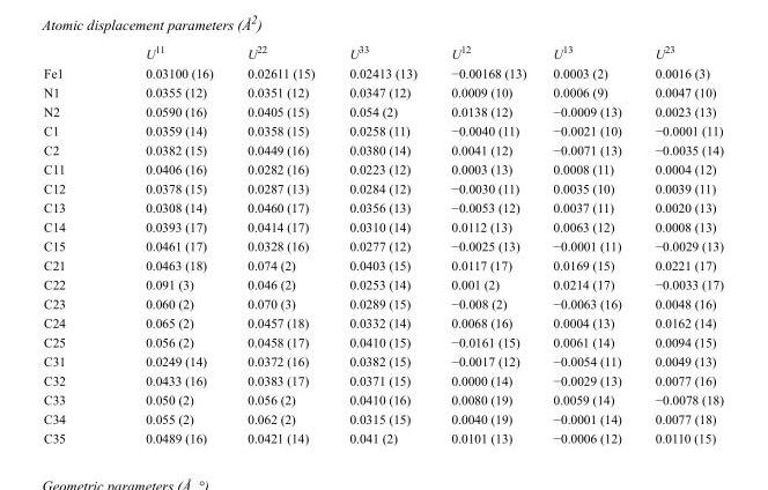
<table><thead><tr><td></td><td>U<sup>11</sup></td><td>U<sup>22</sup></td><td>U<sup>33</sup></td><td>U<sup>12</sup></td><td>U<sup>13</sup></td><td>U<sup>23</sup></td></tr></thead><tbody><tr><td>Fe1</td><td>0.03100 (16)</td><td>0.02611 (15)</td><td>0.02413 (13)</td><td>−0.00168 (13)</td><td>0.0003 (2)</td><td>0.0016 (3)</td></tr><tr><td>N1</td><td>0.0355 (12)</td><td>0.0351 (12)</td><td>0.0347 (12)</td><td>0.0009 (10)</td><td>0.0006 (9)</td><td>0.0047 (10)</td></tr><tr><td>N2</td><td>0.0590 (16)</td><td>0.0405 (15)</td><td>0.054 (2)</td><td>0.0138 (12)</td><td>−0.0009 (13)</td><td>0.0023 (13)</td></tr><tr><td>C1</td><td>0.0359 (14)</td><td>0.0358 (15)</td><td>0.0258 (11)</td><td>−0.0040 (11)</td><td>−0.0021 (10)</td><td>−0.0001 (11)</td></tr><tr><td>C2</td><td>0.0382 (15)</td><td>0.0449 (16)</td><td>0.0380 (14)</td><td>0.0041 (12)</td><td>−0.0071 (13)</td><td>−0.0035 (14)</td></tr><tr><td>C11</td><td>0.0406 (16)</td><td>0.0282 (16)</td><td>0.0223 (12)</td><td>0.0003 (13)</td><td>0.0008 (11)</td><td>0.0004 (12)</td></tr><tr><td>C12</td><td>0.0378 (15)</td><td>0.0287 (13)</td><td>0.0284 (12)</td><td>−0.0030 (11)</td><td>0.0035 (10)</td><td>0.0039 (11)</td></tr><tr><td>C13</td><td>0.0308 (14)</td><td>0.0460 (17)</td><td>0.0356 (13)</td><td>−0.0053 (12)</td><td>0.0037 (11)</td><td>0.0020 (13)</td></tr><tr><td>C14</td><td>0.0393 (17)</td><td>0.0414 (17)</td><td>0.0310 (14)</td><td>0.0112 (13)</td><td>0.0063 (12)</td><td>0.0008 (13)</td></tr><tr><td>C15</td><td>0.0461 (17)</td><td>0.0328 (16)</td><td>0.0277 (12)</td><td>−0.0025 (13)</td><td>−0.0001 (11)</td><td>−0.0029 (13)</td></tr><tr><td>C21</td><td>0.0463 (18)</td><td>0.074 (2)</td><td>0.0403 (15)</td><td>0.0117 (17)</td><td>0.0169 (15)</td><td>0.0221 (17)</td></tr><tr><td>C22</td><td>0.091 (3)</td><td>0.046 (2)</td><td>0.0253 (14)</td><td>0.001 (2)</td><td>0.0214 (17)</td><td>−0.0033 (17)</td></tr><tr><td>C23</td><td>0.060 (2)</td><td>0.070 (3)</td><td>0.0289 (15)</td><td>−0.008 (2)</td><td>−0.0063 (16)</td><td>0.0048 (16)</td></tr><tr><td>C24</td><td>0.065 (2)</td><td>0.0457 (18)</td><td>0.0332 (14)</td><td>0.0068 (16)</td><td>0.0004 (13)</td><td>0.0162 (14)</td></tr><tr><td>C25</td><td>0.056 (2)</td><td>0.0458 (17)</td><td>0.0410 (15)</td><td>−0.0161 (15)</td><td>0.0061 (14)</td><td>0.0094 (15)</td></tr><tr><td>C31</td><td>0.0249 (14)</td><td>0.0372 (16)</td><td>0.0382 (15)</td><td>−0.0017 (12)</td><td>−0.0054 (11)</td><td>0.0049 (13)</td></tr><tr><td>C32</td><td>0.0433 (16)</td><td>0.0383 (17)</td><td>0.0371 (15)</td><td>0.0000 (14)</td><td>−0.0029 (13)</td><td>0.0077 (16)</td></tr><tr><td>C33</td><td>0.050 (2)</td><td>0.056 (2)</td><td>0.0410 (16)</td><td>0.0080 (19)</td><td>0.0059 (14)</td><td>−0.0078 (18)</td></tr><tr><td>C34</td><td>0.055 (2)</td><td>0.062 (2)</td><td>0.0315 (15)</td><td>0.0040 (19)</td><td>−0.0001 (14)</td><td>0.0077 (18)</td></tr><tr><td>C35</td><td>0.0489 (16)</td><td>0.0421 (14)</td><td>0.041 (2)</td><td>0.0101 (13)</td><td>−0.0006 (12)</td><td>0.0110 (15)</td></tr></tbody></table>